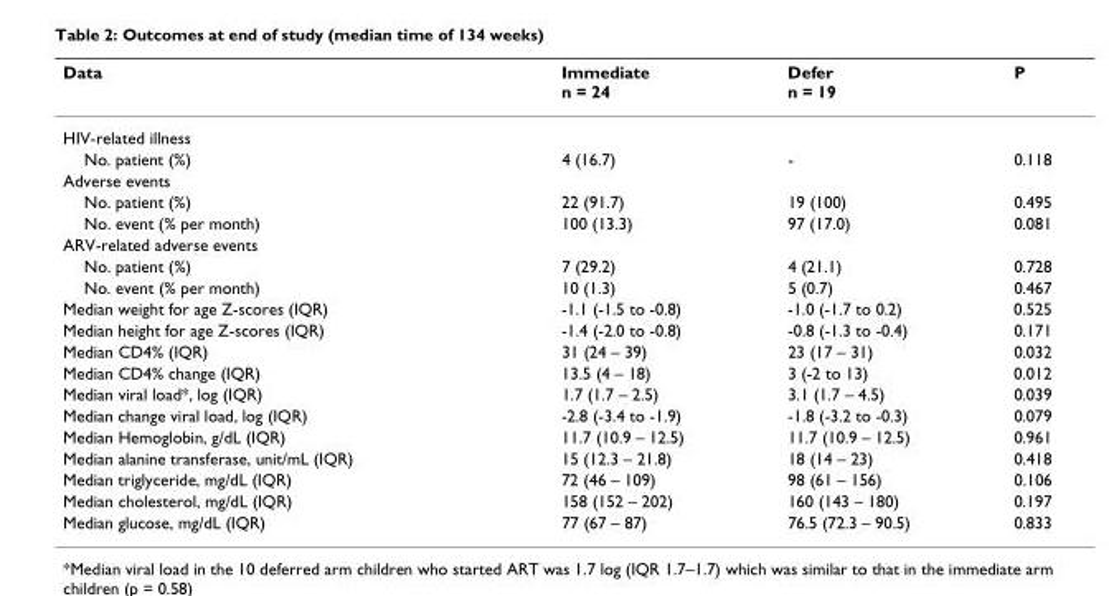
<table><thead><tr><td>Data</td><td>Immediate n = 24</td><td>Defer n = 19</td><td>P</td></tr></thead><tbody><tr><td colspan="4">HIV-related illness</td></tr><tr><td>No. patient (%)</td><td>4 (16.7)</td><td>-</td><td>0.118</td></tr><tr><td colspan="4">Adverse events</td></tr><tr><td>No. patient (%)</td><td>22 (91.7)</td><td>19 (100)</td><td>0.495</td></tr><tr><td>No. event (% per month)</td><td>100 (13.3)</td><td>97 (17.0)</td><td>0.081</td></tr><tr><td colspan="4">ARV-related adverse events</td></tr><tr><td>No. patient (%)</td><td>7 (29.2)</td><td>4 (21.1)</td><td>0.728</td></tr><tr><td>No. event (% per month)</td><td>10 (1.3)</td><td>5 (0.7)</td><td>0.467</td></tr><tr><td>Median weight for age Z-scores (IQR)</td><td>-1.1 (-1.5 to -0.8)</td><td>-1.0 (-1.7 to 0.2)</td><td>0.525</td></tr><tr><td>Median height for age Z-scores (IQR)</td><td>-1.4 (-2.0 to -0.8)</td><td>-0.8 (-1.3 to -0.4)</td><td>0.171</td></tr><tr><td>Median CD4% (IQR)</td><td>31 (24 – 39)</td><td>23 (17 – 31)</td><td>0.032</td></tr><tr><td>Median CD4% change (IQR)</td><td>13.5 (4 – 18)</td><td>3 (-2 to 13)</td><td>0.012</td></tr><tr><td>Median viral load*, log (IQR)</td><td>1.7 (1.7 – 2.5)</td><td>3.1 (1.7 – 4.5)</td><td>0.039</td></tr><tr><td>Median change viral load, log (IQR)</td><td>-2.8 (-3.4 to -1.9)</td><td>-1.8 (-3.2 to -0.3)</td><td>0.079</td></tr><tr><td>Median Hemoglobin, g/dL (IQR)</td><td>11.7 (10.9 – 12.5)</td><td>11.7 (10.9 – 12.5)</td><td>0.961</td></tr><tr><td>Median alanine transferase, unit/mL (IQR)</td><td>15 (12.3 – 21.8)</td><td>18 (14 – 23)</td><td>0.418</td></tr><tr><td>Median triglyceride, mg/dL (IQR)</td><td>72 (46 – 109)</td><td>98 (61 – 156)</td><td>0.106</td></tr><tr><td>Median cholesterol, mg/dL (IQR)</td><td>158 (152 – 202)</td><td>160 (143 – 180)</td><td>0.197</td></tr><tr><td>Median glucose, mg/dL (IQR)</td><td>77 (67 – 87)</td><td>76.5 (72.3 – 90.5)</td><td>0.833</td></tr></tbody></table>